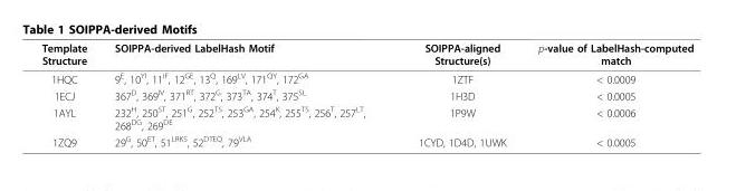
<table><thead><tr><td>Template Structure</td><td>SOIPPA-derived LabelHash Motif</td><td>SOIPPA-aligned Structure(s)</td><td>p-value of LabelHash-computed match</td></tr></thead><tbody><tr><td>1HQC</td><td>9<sup>E</sup>, 10<sup>YI</sup>, 11<sup>IF</sup>, 12<sup>GE</sup>, 13<sup>Q</sup>, 169<sup>LV</sup>, 171<sup>QY</sup>, 172<sup>GA</sup></td><td>1ZTF</td><td>&lt; 0.0009</td></tr><tr><td>1ECJ</td><td>367<sup>D</sup>, 369<sup>IV</sup>, 371<sup>RT</sup>, 372<sup>G</sup>, 373<sup>TA</sup>, 374<sup>T</sup>, 375<sup>SL</sup></td><td>1H3D</td><td>&lt; 0.0005</td></tr><tr><td>1AYL</td><td>232<sup>H</sup>, 250<sup>ST</sup>, 251<sup>G</sup>, 252<sup>TS</sup>, 253<sup>GA</sup>, 254<sup>K</sup>, 255<sup>TS</sup>, 256<sup>T</sup>, 257<sup>LT</sup>, 268<sup>DG</sup>, 269<sup>DE</sup></td><td>1P9W</td><td>&lt; 0.0006</td></tr><tr><td>1ZQ9</td><td>29<sup>G</sup>, 50<sup>ET</sup>, 51<sup>LRKS</sup>, 52<sup>DTEQ</sup>, 79<sup>VLA</sup></td><td>1CYD, 1D4D, 1UWK</td><td>&lt; 0.0005</td></tr></tbody></table>